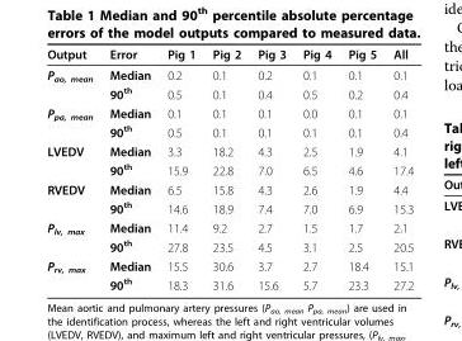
<table><thead><tr><td>Output</td><td>Error</td><td>Pig 1</td><td>Pig 2</td><td>Pig 3</td><td>Pig 4</td><td>Pig 5</td><td>All</td></tr></thead><tbody><tr><td rowspan="2">P<sub>ao, mean</sub></td><td>Median</td><td>0.2</td><td>0.1</td><td>0.2</td><td>0.1</td><td>0.1</td><td>0.1</td></tr><tr><td>90<sup>th</sup></td><td>0.5</td><td>0.1</td><td>0.4</td><td>0.5</td><td>0.2</td><td>0.4</td></tr><tr><td rowspan="2">P<sub>pa, mean</sub></td><td>Median</td><td>0.1</td><td>0.1</td><td>0.1</td><td>0.0</td><td>0.1</td><td>0.1</td></tr><tr><td>90<sup>th</sup></td><td>0.5</td><td>0.1</td><td>0.1</td><td>0.1</td><td>0.1</td><td>0.4</td></tr><tr><td rowspan="2">LVEDV</td><td>Median</td><td>3.3</td><td>18.2</td><td>4.3</td><td>2.5</td><td>1.9</td><td>4.1</td></tr><tr><td>90<sup>th</sup></td><td>15.9</td><td>22.8</td><td>7.0</td><td>6.5</td><td>4.6</td><td>17.4</td></tr><tr><td rowspan="2">RVEDV</td><td>Median</td><td>6.5</td><td>15.8</td><td>4.3</td><td>2.6</td><td>1.9</td><td>4.4</td></tr><tr><td>90<sup>th</sup></td><td>14.6</td><td>18.9</td><td>7.4</td><td>7.0</td><td>6.9</td><td>15.3</td></tr><tr><td rowspan="2">P<sub>lv, max</sub></td><td>Median</td><td>11.4</td><td>9.2</td><td>2.7</td><td>1.5</td><td>1.7</td><td>2.1</td></tr><tr><td>90<sup>th</sup></td><td>27.8</td><td>23.5</td><td>4.5</td><td>3.1</td><td>2.5</td><td>20.5</td></tr><tr><td rowspan="2">P<sub>rv, max</sub></td><td>Median</td><td>15.5</td><td>30.6</td><td>3.7</td><td>2.7</td><td>18.4</td><td>15.1</td></tr><tr><td>90<sup>th</sup></td><td>18.3</td><td>31.6</td><td>15.6</td><td>5.7</td><td>23.3</td><td>27.2</td></tr></tbody></table>